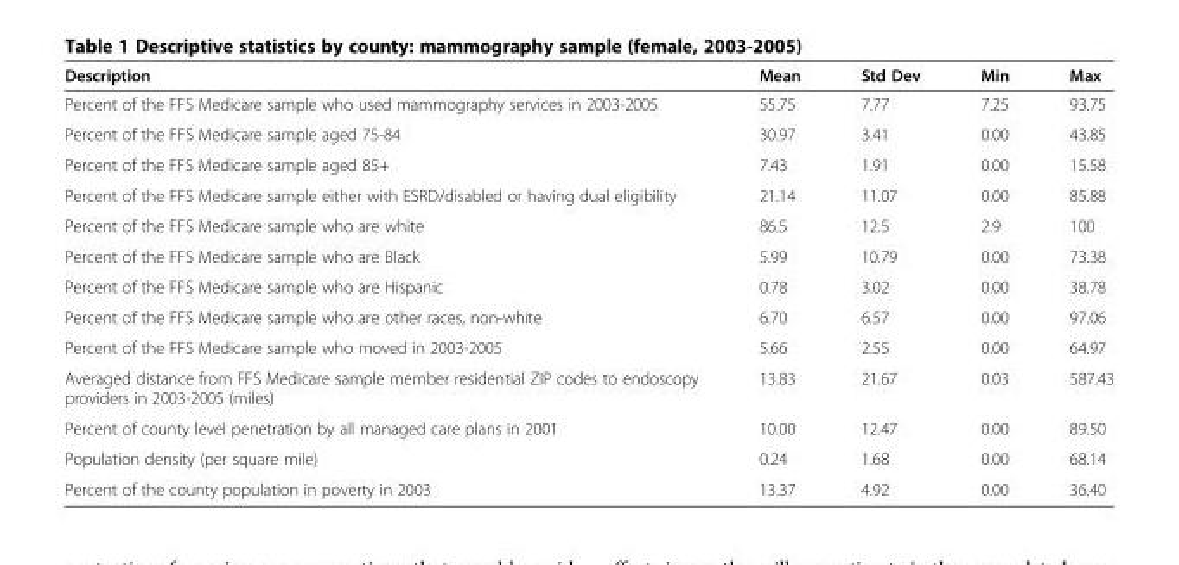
<table><thead><tr><td>Description</td><td>Mean</td><td>Std Dev</td><td>Min</td><td>Max</td></tr></thead><tbody><tr><td>Percent of the FFS Medicare sample who used mammography services in 2003-2005</td><td>55.75</td><td>7.77</td><td>7.25</td><td>93.75</td></tr><tr><td>Percent of the FFS Medicare sample aged 75-84</td><td>30.97</td><td>3.41</td><td>0.00</td><td>43.85</td></tr><tr><td>Percent of the FFS Medicare sample aged 85+</td><td>7.43</td><td>1.91</td><td>0.00</td><td>15.58</td></tr><tr><td>Percent of the FFS Medicare sample either with ESRD/disabled or having dual eligibility</td><td>21.14</td><td>11.07</td><td>0.00</td><td>85.88</td></tr><tr><td>Percent of the FFS Medicare sample who are white</td><td>86.5</td><td>12.5</td><td>2.9</td><td>100</td></tr><tr><td>Percent of the FFS Medicare sample who are Black</td><td>5.99</td><td>10.79</td><td>0.00</td><td>73.38</td></tr><tr><td>Percent of the FFS Medicare sample who are Hispanic</td><td>0.78</td><td>3.02</td><td>0.00</td><td>38.78</td></tr><tr><td>Percent of the FFS Medicare sample who are other races, non-white</td><td>6.70</td><td>6.57</td><td>0.00</td><td>97.06</td></tr><tr><td>Percent of the FFS Medicare sample who moved in 2003-2005</td><td>5.66</td><td>2.55</td><td>0.00</td><td>64.97</td></tr><tr><td>Averaged distance from FFS Medicare sample member residential ZIP codes to endoscopy providers in 2003-2005 (miles)</td><td>13.83</td><td>21.67</td><td>0.03</td><td>587.43</td></tr><tr><td>Percent of county level penetration by all managed care plans in 2001</td><td>10.00</td><td>12.47</td><td>0.00</td><td>89.50</td></tr><tr><td>Population density (per square mile)</td><td>0.24</td><td>1.68</td><td>0.00</td><td>68.14</td></tr><tr><td>Percent of the county population in poverty in 2003</td><td>13.37</td><td>4.92</td><td>0.00</td><td>36.40</td></tr></tbody></table>